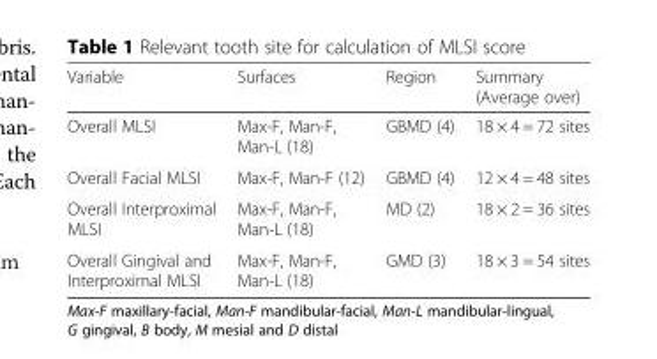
<table><thead><tr><td>Variable</td><td>Surfaces</td><td>Region</td><td>Summary (Average over)</td></tr></thead><tbody><tr><td>Overall MLSI</td><td>Max-F, Man-F, Man-L (18)</td><td>GBMD (4)</td><td>18 × 4 = 72 sites</td></tr><tr><td>Overall Facial MLSI</td><td>Max-F, Man-F (12)</td><td>GBMD (4)</td><td>12 × 4 = 48 sites</td></tr><tr><td>Overall Interproximal MLSI</td><td>Max-F, Man-F, Man-L (18)</td><td>MD (2)</td><td>18 × 2 = 36 sites</td></tr><tr><td>Overall Gingival and Interproximal MLSI</td><td>Max-F, Man-F, Man-L (18)</td><td>GMD (3)</td><td>18 × 3 = 54 sites</td></tr></tbody></table>